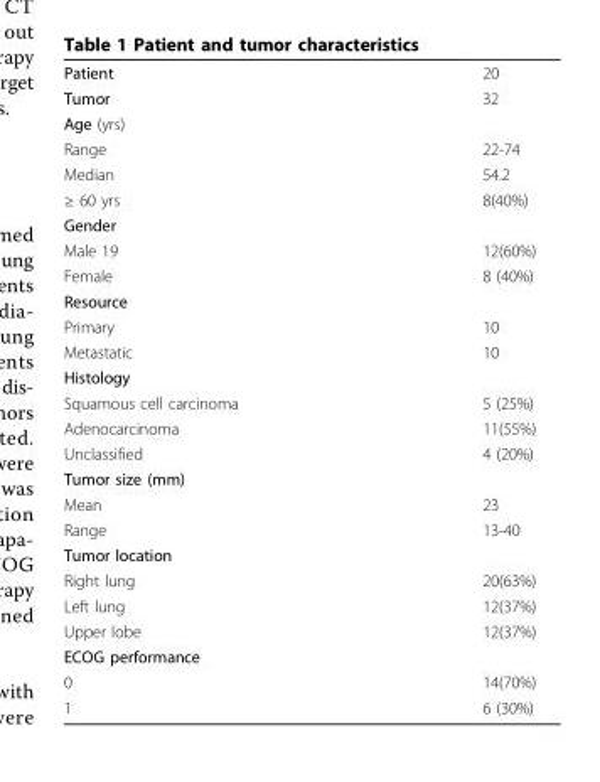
<table><tbody><tr><td>Patient</td><td>20</td></tr><tr><td>Tumor</td><td>32</td></tr><tr><td colspan="2">Age (yrs)</td></tr><tr><td>Range</td><td>22-74</td></tr><tr><td>Median</td><td>54.2</td></tr><tr><td>≥ 60 yrs</td><td>8(40%)</td></tr><tr><td colspan="2">Gender</td></tr><tr><td>Male 19</td><td>12(60%)</td></tr><tr><td>Female</td><td>8 (40%)</td></tr><tr><td colspan="2">Resource</td></tr><tr><td>Primary</td><td>10</td></tr><tr><td>Metastatic</td><td>10</td></tr><tr><td colspan="2">Histology</td></tr><tr><td>Squamous cell carcinoma</td><td>5 (25%)</td></tr><tr><td>Adenocarcinoma</td><td>11(55%)</td></tr><tr><td>Unclassified</td><td>4 (20%)</td></tr><tr><td colspan="2">Tumor size (mm)</td></tr><tr><td>Mean</td><td>23</td></tr><tr><td>Range</td><td>13-40</td></tr><tr><td colspan="2">Tumor location</td></tr><tr><td>Right lung</td><td>20(63%)</td></tr><tr><td>Left lung</td><td>12(37%)</td></tr><tr><td>Upper lobe</td><td>12(37%)</td></tr><tr><td colspan="2">ECOG performance</td></tr><tr><td>0</td><td>14(70%)</td></tr><tr><td>1</td><td>6 (30%)</td></tr></tbody></table>